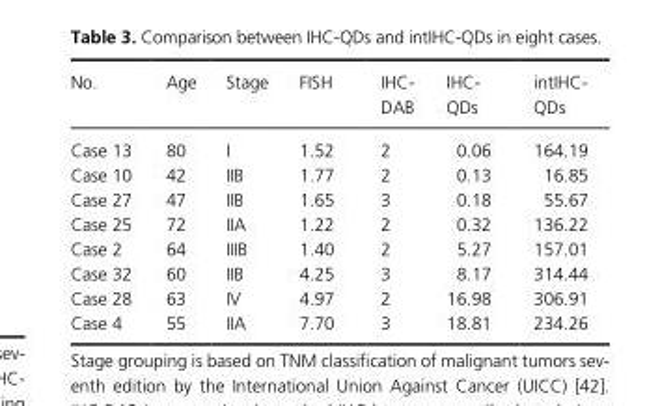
<table><thead><tr><td>No.</td><td>Age</td><td>Stage</td><td>FISH</td><td>IHC- DAB</td><td>IHC- QDs</td><td>intIHC- QDs</td></tr></thead><tbody><tr><td>Case 13</td><td>80</td><td>I</td><td>1.52</td><td>2</td><td>0.06</td><td>164.19</td></tr><tr><td>Case 10</td><td>42</td><td>IIB</td><td>1.77</td><td>2</td><td>0.13</td><td>16.85</td></tr><tr><td>Case 27</td><td>47</td><td>IIB</td><td>1.65</td><td>3</td><td>0.18</td><td>55.67</td></tr><tr><td>Case 25</td><td>72</td><td>IIA</td><td>1.22</td><td>2</td><td>0.32</td><td>136.22</td></tr><tr><td>Case 2</td><td>64</td><td>IIIB</td><td>1.40</td><td>2</td><td>5.27</td><td>157.01</td></tr><tr><td>Case 32</td><td>60</td><td>IIB</td><td>4.25</td><td>3</td><td>8.17</td><td>314.44</td></tr><tr><td>Case 28</td><td>63</td><td>IV</td><td>4.97</td><td>2</td><td>16.98</td><td>306.91</td></tr><tr><td>Case 4</td><td>55</td><td>IIA</td><td>7.70</td><td>3</td><td>18.81</td><td>234.26</td></tr></tbody></table>